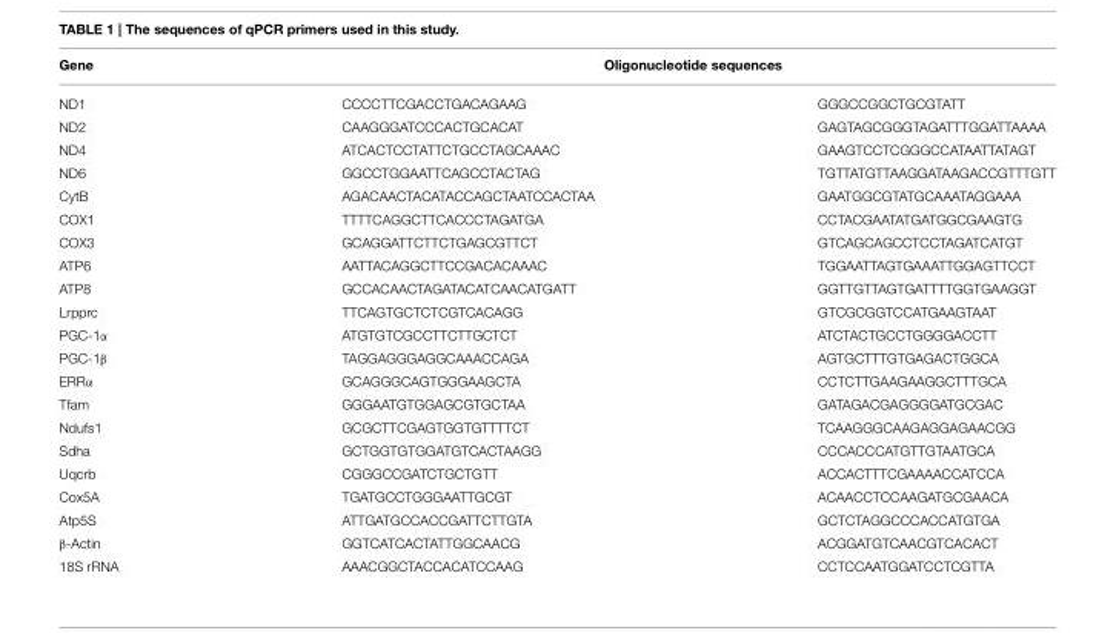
<table><thead><tr><td rowspan="2">Gene ND1</td><td colspan="2">Oligonucleotide sequences</td></tr><tr><td>CCCCTTCGACCTGACAGAAG</td><td>GGGCCGGCTGCGTATT</td></tr></thead><tbody><tr><td>ND2</td><td>CAAGGGATCCCACTGCACAT</td><td>GAGTAGCGGGTAGATTTGGATTAAAA</td></tr><tr><td>ND4</td><td>ATCACTCCTATTCTGCCTAGCAAAC</td><td>GAAGTCCTCGGGCCATAATTATAGT</td></tr><tr><td>ND6</td><td>GGCCTGGAATTCAGCCTACTAG</td><td>TGTTATGTTAAGGATAAGACCGTTTGTT</td></tr><tr><td>CytB</td><td>AGACAACTACATACCAGCTAATCCACTAA</td><td>GAATGGCGTATGCAAATAGGAAA</td></tr><tr><td>COX1</td><td>TTTTCAGGCTTCACCCTAGATGA</td><td>CCTACGAATATGATGGCGAAGTG</td></tr><tr><td>COX3</td><td>GCAGGATTCTTCTGAGCGTTCT</td><td>GTCAGCAGCCTCCTAGATCATGT</td></tr><tr><td>ATP6</td><td>AATTACAGGCTTCCGACACAAAC</td><td>TGGAATTAGTGAAATTGGAGTTCCT</td></tr><tr><td>ATP8</td><td>GCCACAACTAGATACATCAACATGATT</td><td>GGTTGTTAGTGATTTTGGTGAAGGT</td></tr><tr><td>Lrpprc</td><td>TTCAGTGCTCTCGTCACAGG</td><td>GTCGCGGTCCATGAAGTAAT</td></tr><tr><td>PGC-1α</td><td>ATGTGTCGCCTTCTTGCTCT</td><td>ATCTACTGCCTGGGGACCTT</td></tr><tr><td>PGC-1β</td><td>TAGGAGGGAGGCAAACCAGA</td><td>AGTGCTTTGTGAGACTGGCA</td></tr><tr><td>ERRα</td><td>GCAGGGCAGTGGGAAGCTA</td><td>CCTCTTGAAGAAGGCTTTGCA</td></tr><tr><td>Tfam</td><td>GGGAATGTGGAGCGTGCTAA</td><td>GATAGACGAGGGGATGCGAC</td></tr><tr><td>Ndufs1</td><td>GCGCTTCGAGTGGTGTTTTCT</td><td>TCAAGGGCAAGAGGAGAACGG</td></tr><tr><td>Sdha</td><td>GCTGGTGTGGATGTCACTAAGG</td><td>CCCACCCATGTTGTAATGCA</td></tr><tr><td>Uqcrb</td><td>CGGGCCGATCTGCTGTT</td><td>ACCACTTTCGAAAACCATCCA</td></tr><tr><td>Cox5A</td><td>TGATGCCTGGGAATTGCGT</td><td>ACAACCTCCAAGATGCGAACA</td></tr><tr><td>Atp5S</td><td>ATTGATGCCACCGATTCTTGTA</td><td>GCTCTAGGCCCACCATGTGA</td></tr><tr><td>β-Actin</td><td>GGTCATCACTATTGGCAACG</td><td>ACGGATGTCAACGTCACACT</td></tr><tr><td>18S rRNA</td><td>AAACGGCTACCACATCCAAG</td><td>CCTCCAATGGATCCTCGTTA</td></tr></tbody></table>